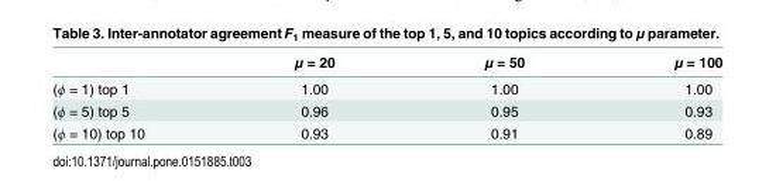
<table><thead><tr><td></td><td>μ = 20</td><td>μ = 50</td><td>μ = 100</td></tr></thead><tbody><tr><td>(ϕ = 1) top 1</td><td>1.00</td><td>1.00</td><td>1.00</td></tr><tr><td>(ϕ = 5) top 5</td><td>0.96</td><td>0.95</td><td>0.93</td></tr><tr><td>(ϕ = 10) top 10</td><td>0.93</td><td>0.91</td><td>0.89</td></tr></tbody></table>